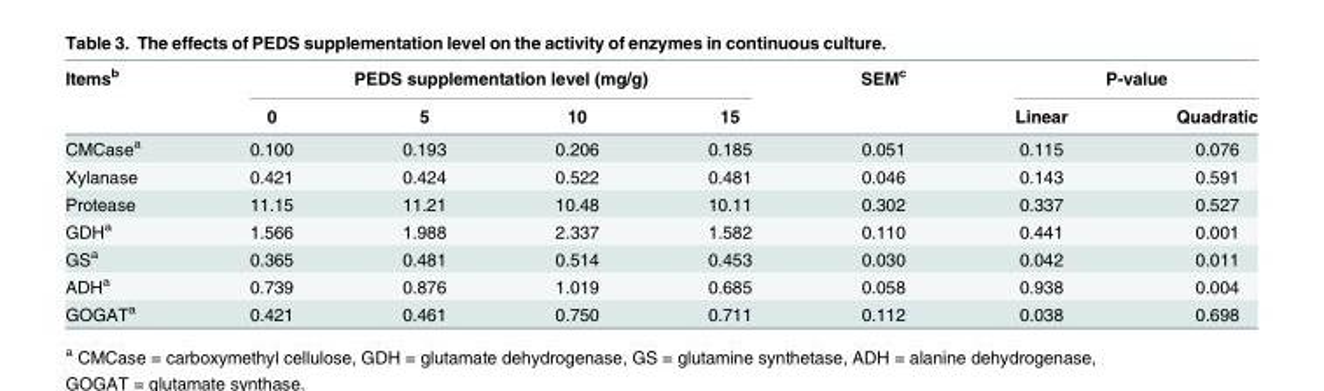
<table><thead><tr><td rowspan="2">Items<sup>b</sup></td><td colspan="4">PEDS supplementation level (mg/g)</td><td rowspan="2">SEM<sup>c</sup></td><td colspan="2">P-value</td></tr><tr><td>0</td><td>5</td><td>10</td><td>15</td><td>Linear</td><td>Quadratic</td></tr></thead><tbody><tr><td>CMCase<sup>a</sup></td><td>0.100</td><td>0.193</td><td>0.206</td><td>0.185</td><td>0.051</td><td>0.115</td><td>0.076</td></tr><tr><td>Xylanase</td><td>0.421</td><td>0.424</td><td>0.522</td><td>0.481</td><td>0.046</td><td>0.143</td><td>0.591</td></tr><tr><td>Protease</td><td>11.15</td><td>11.21</td><td>10.48</td><td>10.11</td><td>0.302</td><td>0.337</td><td>0.527</td></tr><tr><td>GDH<sup>a</sup></td><td>1.566</td><td>1.988</td><td>2.337</td><td>1.582</td><td>0.110</td><td>0.441</td><td>0.001</td></tr><tr><td>GS<sup>a</sup></td><td>0.365</td><td>0.481</td><td>0.514</td><td>0.453</td><td>0.030</td><td>0.042</td><td>0.011</td></tr><tr><td>ADH<sup>a</sup></td><td>0.739</td><td>0.876</td><td>1.019</td><td>0.685</td><td>0.058</td><td>0.938</td><td>0.004</td></tr><tr><td>GOGAT<sup>a</sup></td><td>0.421</td><td>0.461</td><td>0.750</td><td>0.711</td><td>0.112</td><td>0.038</td><td>0.698</td></tr></tbody></table>